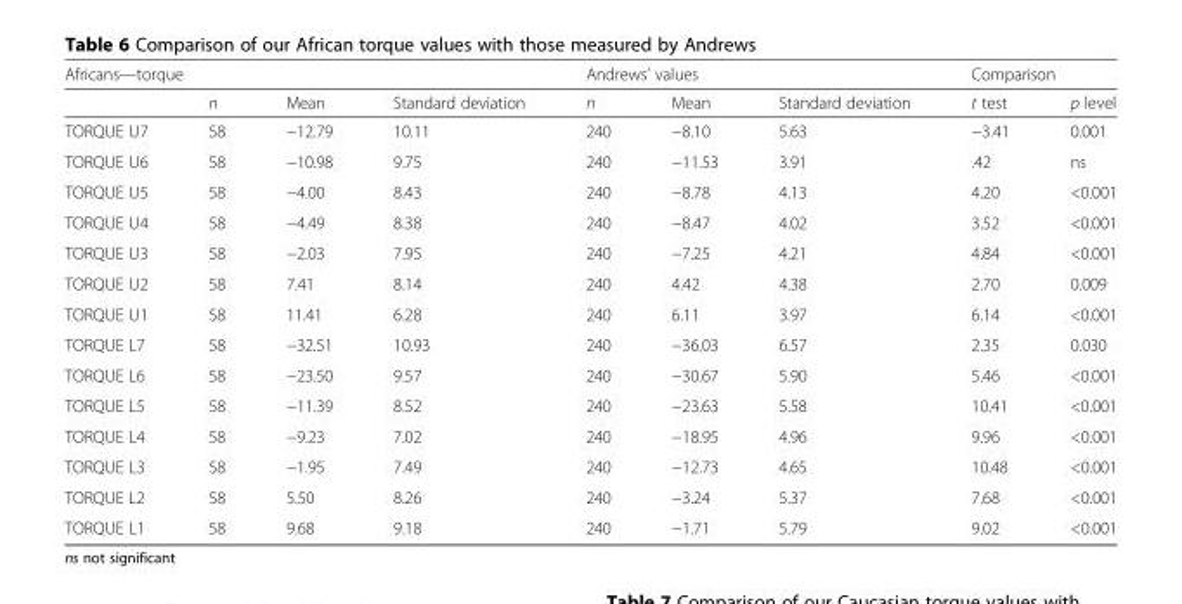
<table><thead><tr><td colspan="4">Africans—torque</td><td colspan="3">Andrews’ values</td><td colspan="2">Comparison</td></tr><tr><td></td><td>n</td><td>Mean</td><td>Standard deviation</td><td>n</td><td>Mean</td><td>Standard deviation</td><td>t test</td><td>p level</td></tr></thead><tbody><tr><td>TORQUE U7</td><td>58</td><td>−12.79</td><td>10.11</td><td>240</td><td>−8.10</td><td>5.63</td><td>−3.41</td><td>0.001</td></tr><tr><td>TORQUE U6</td><td>58</td><td>−10.98</td><td>9.75</td><td>240</td><td>−11.53</td><td>3.91</td><td>.42</td><td>ns</td></tr><tr><td>TORQUE U5</td><td>58</td><td>−4.00</td><td>8.43</td><td>240</td><td>−8.78</td><td>4.13</td><td>4.20</td><td>&lt;0.001</td></tr><tr><td>TORQUE U4</td><td>58</td><td>−4.49</td><td>8.38</td><td>240</td><td>−8.47</td><td>4.02</td><td>3.52</td><td>&lt;0.001</td></tr><tr><td>TORQUE U3</td><td>58</td><td>−2.03</td><td>7.95</td><td>240</td><td>−7.25</td><td>4.21</td><td>4.84</td><td>&lt;0.001</td></tr><tr><td>TORQUE U2</td><td>58</td><td>7.41</td><td>8.14</td><td>240</td><td>4.42</td><td>4.38</td><td>2.70</td><td>0.009</td></tr><tr><td>TORQUE U1</td><td>58</td><td>11.41</td><td>6.28</td><td>240</td><td>6.11</td><td>3.97</td><td>6.14</td><td>&lt;0.001</td></tr><tr><td>TORQUE L7</td><td>58</td><td>−32.51</td><td>10.93</td><td>240</td><td>−36.03</td><td>6.57</td><td>2.35</td><td>0.030</td></tr><tr><td>TORQUE L6</td><td>58</td><td>−23.50</td><td>9.57</td><td>240</td><td>−30.67</td><td>5.90</td><td>5.46</td><td>&lt;0.001</td></tr><tr><td>TORQUE L5</td><td>58</td><td>−11.39</td><td>8.52</td><td>240</td><td>−23.63</td><td>5.58</td><td>10.41</td><td>&lt;0.001</td></tr><tr><td>TORQUE L4</td><td>58</td><td>−9.23</td><td>7.02</td><td>240</td><td>−18.95</td><td>4.96</td><td>9.96</td><td>&lt;0.001</td></tr><tr><td>TORQUE L3</td><td>58</td><td>−1.95</td><td>7.49</td><td>240</td><td>−12.73</td><td>4.65</td><td>10.48</td><td>&lt;0.001</td></tr><tr><td>TORQUE L2</td><td>58</td><td>5.50</td><td>8.26</td><td>240</td><td>−3.24</td><td>5.37</td><td>7.68</td><td>&lt;0.001</td></tr><tr><td>TORQUE L1</td><td>58</td><td>9.68</td><td>9.18</td><td>240</td><td>−1.71</td><td>5.79</td><td>9.02</td><td>&lt;0.001</td></tr></tbody></table>